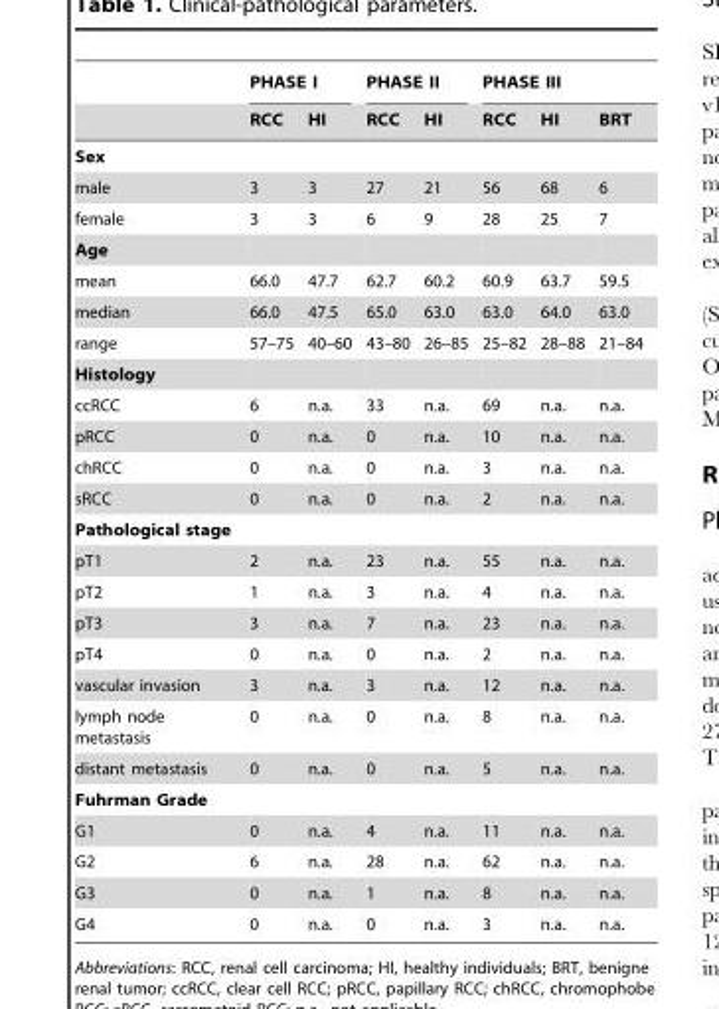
<table><thead><tr><td rowspan="2"></td><td colspan="2">PHASE I</td><td colspan="2">PHASE II</td><td colspan="3">PHASE III</td></tr><tr><td>RCC</td><td>HI</td><td>RCC</td><td>HI</td><td>RCC</td><td>HI</td><td>BRT</td></tr></thead><tbody><tr><td colspan="8">Sex</td></tr><tr><td>male</td><td>3</td><td>3</td><td>27</td><td>21</td><td>56</td><td>68</td><td>6</td></tr><tr><td>female</td><td>3</td><td>3</td><td>6</td><td>9</td><td>28</td><td>25</td><td>7</td></tr><tr><td colspan="8">Age</td></tr><tr><td>mean</td><td>66.0</td><td>47.7</td><td>62.7</td><td>60.2</td><td>60.9</td><td>63.7</td><td>59.5</td></tr><tr><td>median</td><td>66.0</td><td>47.5</td><td>65.0</td><td>63.0</td><td>63.0</td><td>64.0</td><td>63.0</td></tr><tr><td>range</td><td>57–75</td><td>40–60</td><td>43–80</td><td>26–85</td><td>25–82</td><td>28–88</td><td>21–84</td></tr><tr><td colspan="8">Histology</td></tr><tr><td>ccRCC</td><td>6</td><td>n.a.</td><td>33</td><td>n.a.</td><td>69</td><td>n.a.</td><td>n.a.</td></tr><tr><td>pRCC</td><td>0</td><td>n.a.</td><td>0</td><td>n.a.</td><td>10</td><td>n.a.</td><td>n.a.</td></tr><tr><td>chRCC</td><td>0</td><td>n.a.</td><td>0</td><td>n.a.</td><td>3</td><td>n.a.</td><td>n.a.</td></tr><tr><td>sRCC</td><td>0</td><td>n.a.</td><td>0</td><td>n.a.</td><td>2</td><td>n.a.</td><td>n.a.</td></tr><tr><td colspan="8">Pathological stage</td></tr><tr><td>pT1</td><td>2</td><td>n.a.</td><td>23</td><td>n.a.</td><td>55</td><td>n.a.</td><td>n.a.</td></tr><tr><td>pT2</td><td>1</td><td>n.a.</td><td>3</td><td>n.a.</td><td>4</td><td>n.a.</td><td>n.a.</td></tr><tr><td>pT3</td><td>3</td><td>n.a.</td><td>7</td><td>n.a.</td><td>23</td><td>n.a.</td><td>n.a.</td></tr><tr><td>pT4</td><td>0</td><td>n.a.</td><td>0</td><td>n.a.</td><td>2</td><td>n.a.</td><td>n.a.</td></tr><tr><td>vascular invasion</td><td>3</td><td>n.a.</td><td>3</td><td>n.a.</td><td>12</td><td>n.a.</td><td>n.a.</td></tr><tr><td>lymph node metastasis</td><td>0</td><td>n.a.</td><td>0</td><td>n.a.</td><td>8</td><td>n.a.</td><td>n.a.</td></tr><tr><td>distant metastasis</td><td>0</td><td>n.a.</td><td>0</td><td>n.a.</td><td>5</td><td>n.a.</td><td>n.a.</td></tr><tr><td colspan="8">Fuhrman Grade</td></tr><tr><td>G1</td><td>0</td><td>n.a.</td><td>4</td><td>n.a.</td><td>11</td><td>n.a.</td><td>n.a.</td></tr><tr><td>G2</td><td>6</td><td>n.a.</td><td>28</td><td>n.a.</td><td>62</td><td>n.a.</td><td>n.a.</td></tr><tr><td>G3</td><td>0</td><td>n.a.</td><td>1</td><td>n.a.</td><td>8</td><td>n.a.</td><td>n.a.</td></tr><tr><td>G4</td><td>0</td><td>n.a.</td><td>0</td><td>n.a.</td><td>3</td><td>n.a.</td><td>n.a.</td></tr></tbody></table>